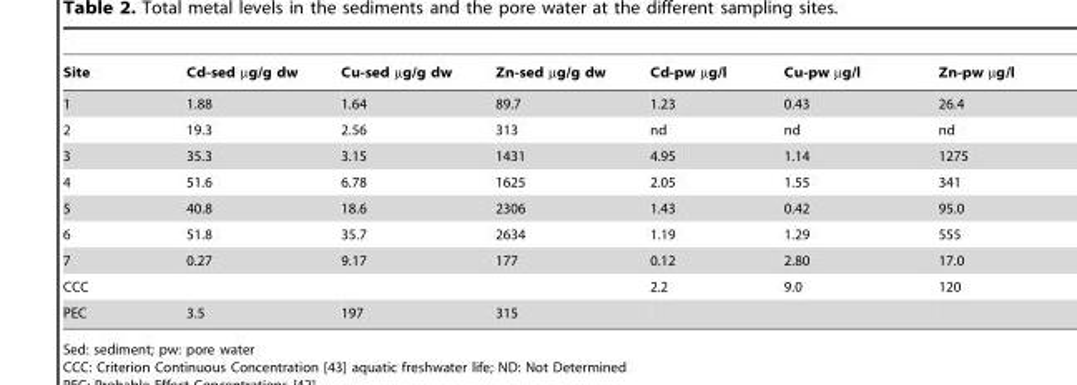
<table><thead><tr><td>Site</td><td>Cd-sed µg/g dw</td><td>Cu-sed µg/g dw</td><td>Zn-sed µg/g dw</td><td>Cd-pw µg/l</td><td>Cu-pw µg/l</td><td>Zn-pw µg/l</td></tr></thead><tbody><tr><td>1</td><td>1.88</td><td>1.64</td><td>89.7</td><td>1.23</td><td>0.43</td><td>26.4</td></tr><tr><td>2</td><td>19.3</td><td>2.56</td><td>313</td><td>nd</td><td>nd</td><td>nd</td></tr><tr><td>3</td><td>35.3</td><td>3.15</td><td>1431</td><td>4.95</td><td>1.14</td><td>1275</td></tr><tr><td>4</td><td>51.6</td><td>6.78</td><td>1625</td><td>2.05</td><td>1.55</td><td>341</td></tr><tr><td>5</td><td>40.8</td><td>18.6</td><td>2306</td><td>1.43</td><td>0.42</td><td>95.0</td></tr><tr><td>6</td><td>51.8</td><td>35.7</td><td>2634</td><td>1.19</td><td>1.29</td><td>555</td></tr><tr><td>7</td><td>0.27</td><td>9.17</td><td>177</td><td>0.12</td><td>2.80</td><td>17.0</td></tr><tr><td>CCC</td><td></td><td></td><td></td><td>2.2</td><td>9.0</td><td>120</td></tr><tr><td>PEC</td><td>3.5</td><td>197</td><td>315</td><td></td><td></td><td></td></tr></tbody></table>